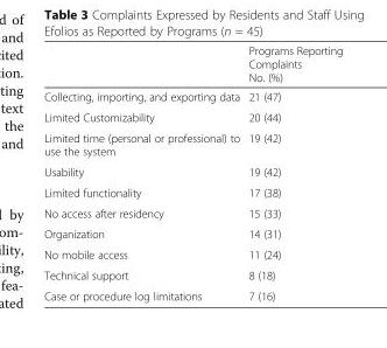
<table><thead><tr><td></td><td>Programs Reporting Complaints No. (%)</td></tr></thead><tbody><tr><td>Collecting, importing, and exporting data</td><td>21 (47)</td></tr><tr><td>Limited Customizability</td><td>20 (44)</td></tr><tr><td>Limited time (personal or professional) to use the system</td><td>19 (42)</td></tr><tr><td>Usability</td><td>19 (42)</td></tr><tr><td>Limited functionality</td><td>17 (38)</td></tr><tr><td>No access after residency</td><td>15 (33)</td></tr><tr><td>Organization</td><td>14 (31)</td></tr><tr><td>No mobile access</td><td>11 (24)</td></tr><tr><td>Technical support</td><td>8 (18)</td></tr><tr><td>Case or procedure log limitations</td><td>7 (16)</td></tr></tbody></table>